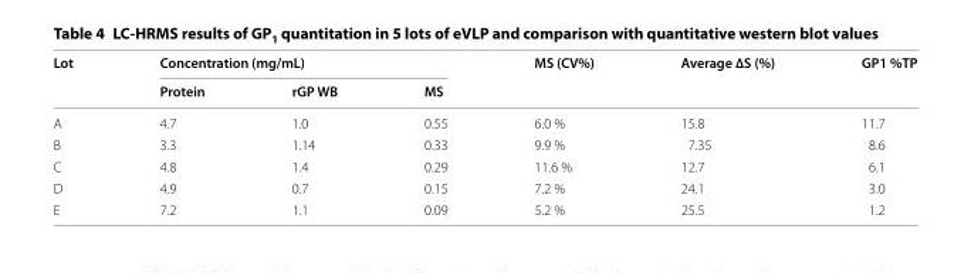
<table><thead><tr><td rowspan="2">Lot</td><td colspan="3">Concentration (mg/mL)</td><td rowspan="2">MS (CV%)</td><td rowspan="2">Average ∆S (%)</td><td rowspan="2">GP1 %TP</td></tr><tr><td>Protein</td><td>rGP WB</td><td>MS</td></tr></thead><tbody><tr><td>A</td><td>4.7</td><td>1.0</td><td>0.55</td><td>6.0 %</td><td>15.8</td><td>11.7</td></tr><tr><td>B</td><td>3.3</td><td>1.14</td><td>0.33</td><td>9.9 %</td><td>7.35</td><td>8.6</td></tr><tr><td>C</td><td>4.8</td><td>1.4</td><td>0.29</td><td>11.6 %</td><td>12.7</td><td>6.1</td></tr><tr><td>D</td><td>4.9</td><td>0.7</td><td>0.15</td><td>7.2 %</td><td>24.1</td><td>3.0</td></tr><tr><td>E</td><td>7.2</td><td>1.1</td><td>0.09</td><td>5.2 %</td><td>25.5</td><td>1.2</td></tr></tbody></table>